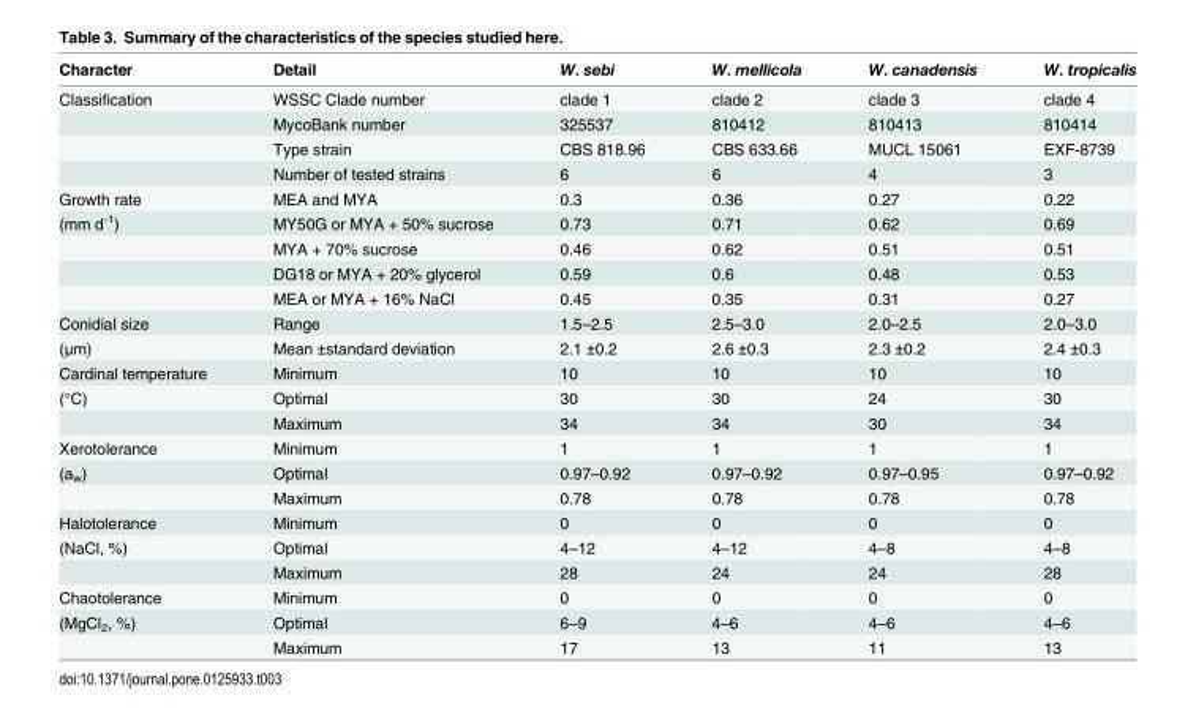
<table><thead><tr><td>Character</td><td>Detail</td><td>W. sebi</td><td>W. mellicola</td><td>W. canadensis</td><td>W. tropicalis</td></tr></thead><tbody><tr><td rowspan="4">Classification</td><td>WSSC Clade number</td><td>clade 1</td><td>clade 2</td><td>clade 3</td><td>clade 4</td></tr><tr><td>MycoBank number</td><td>325537</td><td>810412</td><td>810413</td><td>810414</td></tr><tr><td>Type strain</td><td>CBS 818.96</td><td>CBS 633.66</td><td>MUCL 15061</td><td>EXF-8739</td></tr><tr><td>Number of tested strains</td><td>6</td><td>6</td><td>4</td><td>3</td></tr><tr><td>Growth rate</td><td>MEA and MYA</td><td>0.3</td><td>0.36</td><td>0.27</td><td>0.22</td></tr><tr><td rowspan="4">(mm d<sup>-1</sup>)</td><td>MY50G or MYA + 50% sucrose</td><td>0.73</td><td>0.71</td><td>0.62</td><td>0.69</td></tr><tr><td>MYA + 70% sucrose</td><td>0.46</td><td>0.62</td><td>0.51</td><td>0.51</td></tr><tr><td>DG18 or MYA + 20% glycerol</td><td>0.59</td><td>0.6</td><td>0.48</td><td>0.53</td></tr><tr><td>MEA or MYA + 16% NaCl</td><td>0.45</td><td>0.35</td><td>0.31</td><td>0.27</td></tr><tr><td>Conidial size</td><td>Range</td><td>1.5–2.5</td><td>2.5–3.0</td><td>2.0–2.5</td><td>2.0–3.0</td></tr><tr><td>(μm)</td><td>Mean ±standard deviation</td><td>2.1 ±0.2</td><td>2.6 ±0.3</td><td>2.3 ±0.2</td><td>2.4 ±0.3</td></tr><tr><td>Cardinal temperature</td><td>Minimum</td><td>10</td><td>10</td><td>10</td><td>10</td></tr><tr><td rowspan="2">(°C)</td><td>Optimal</td><td>30</td><td>30</td><td>24</td><td>30</td></tr><tr><td>Maximum</td><td>34</td><td>34</td><td>30</td><td>34</td></tr><tr><td>Xerotolerance</td><td>Minimum</td><td>1</td><td>1</td><td>1</td><td>1</td></tr><tr><td rowspan="2">(a<sub>w</sub>)</td><td>Optimal</td><td>0.97–0.92</td><td>0.97–0.92</td><td>0.97–0.95</td><td>0.97–0.92</td></tr><tr><td>Maximum</td><td>0.78</td><td>0.78</td><td>0.78</td><td>0.78</td></tr><tr><td>Halotolerance</td><td>Minimum</td><td>0</td><td>0</td><td>0</td><td>0</td></tr><tr><td rowspan="2">(NaCl, %)</td><td>Optimal</td><td>4–12</td><td>4–12</td><td>4–8</td><td>4–8</td></tr><tr><td>Maximum</td><td>28</td><td>24</td><td>24</td><td>28</td></tr><tr><td>Chaotolerance</td><td>Minimum</td><td>0</td><td>0</td><td>0</td><td>0</td></tr><tr><td rowspan="2">(MgCl<sub>2</sub>, %)</td><td>Optimal</td><td>6–9</td><td>4–6</td><td>4–6</td><td>4–6</td></tr><tr><td>Maximum</td><td>17</td><td>13</td><td>11</td><td>13</td></tr></tbody></table>